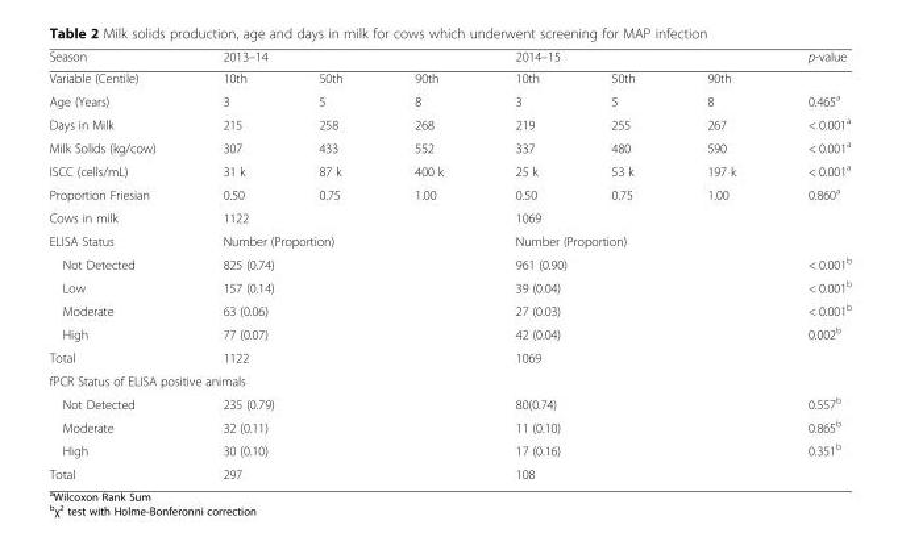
<table><thead><tr><td rowspan="2">Season Variable (Centile)</td><td colspan="3">2013–14</td><td colspan="3">2014–15</td><td rowspan="2">p-value</td></tr><tr><td>10th</td><td>50th</td><td>90th</td><td>10th</td><td>50th</td><td>90th</td></tr></thead><tbody><tr><td>Age (Years)</td><td>3</td><td>5</td><td>8</td><td>3</td><td>5</td><td>8</td><td>0.465<sup>a</sup></td></tr><tr><td>Days in Milk</td><td>215</td><td>258</td><td>268</td><td>219</td><td>255</td><td>267</td><td>&lt; 0.001<sup>a</sup></td></tr><tr><td>Milk Solids (kg/cow)</td><td>307</td><td>433</td><td>552</td><td>337</td><td>480</td><td>590</td><td>&lt; 0.001<sup>a</sup></td></tr><tr><td>ISCC (cells/mL)</td><td>31 k</td><td>87 k</td><td>400 k</td><td>25 k</td><td>53 k</td><td>197 k</td><td>&lt; 0.001<sup>a</sup></td></tr><tr><td>Proportion Friesian</td><td>0.50</td><td>0.75</td><td>1.00</td><td>0.50</td><td>0.75</td><td>1.00</td><td>0.860<sup>a</sup></td></tr><tr><td>Cows in milk</td><td colspan="3">1122</td><td colspan="3">1069</td><td></td></tr><tr><td>ELISA Status</td><td colspan="3">Number (Proportion)</td><td colspan="3">Number (Proportion)</td><td></td></tr><tr><td>Not Detected</td><td colspan="3">825 (0.74)</td><td colspan="3">961 (0.90)</td><td>&lt; 0.001<sup>b</sup></td></tr><tr><td>Low</td><td colspan="3">157 (0.14)</td><td colspan="3">39 (0.04)</td><td>&lt; 0.001<sup>b</sup></td></tr><tr><td>Moderate</td><td colspan="3">63 (0.06)</td><td colspan="3">27 (0.03)</td><td>&lt; 0.001<sup>b</sup></td></tr><tr><td>High</td><td colspan="3">77 (0.07)</td><td colspan="3">42 (0.04)</td><td>0.002<sup>b</sup></td></tr><tr><td>Total</td><td colspan="3">1122</td><td colspan="3">1069</td><td></td></tr><tr><td colspan="8">fPCR Status of ELISA positive animals</td></tr><tr><td>Not Detected</td><td colspan="3">235 (0.79)</td><td colspan="3">80(0.74)</td><td>0.557<sup>b</sup></td></tr><tr><td>Moderate</td><td colspan="3">32 (0.11)</td><td colspan="3">11 (0.10)</td><td>0.865<sup>b</sup></td></tr><tr><td>High</td><td colspan="3">30 (0.10)</td><td colspan="3">17 (0.16)</td><td>0.351<sup>b</sup></td></tr><tr><td>Total</td><td colspan="3">297</td><td colspan="3">108</td><td></td></tr></tbody></table>